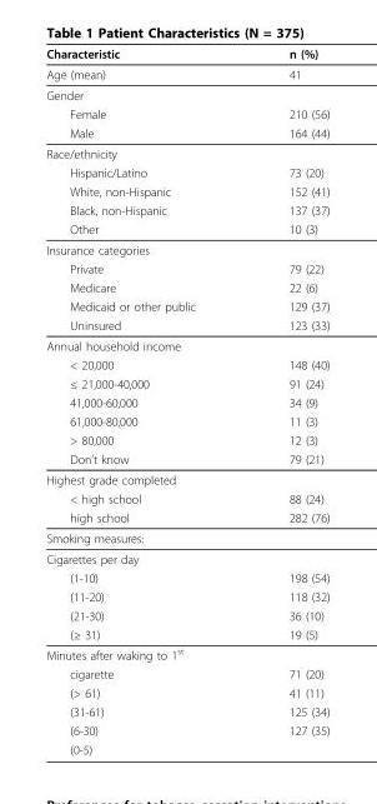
<table><thead><tr><td>Characteristic</td><td>n (%)</td></tr></thead><tbody><tr><td>Age (mean)</td><td>41</td></tr><tr><td colspan="2">Gender</td></tr><tr><td>Female</td><td>210 (56)</td></tr><tr><td>Male</td><td>164 (44)</td></tr><tr><td colspan="2">Race/ethnicity</td></tr><tr><td>Hispanic/Latino</td><td>73 (20)</td></tr><tr><td>White, non-Hispanic</td><td>152 (41)</td></tr><tr><td>Black, non-Hispanic</td><td>137 (37)</td></tr><tr><td>Other</td><td>10 (3)</td></tr><tr><td colspan="2">Insurance categories</td></tr><tr><td>Private</td><td>79 (22)</td></tr><tr><td>Medicare</td><td>22 (6)</td></tr><tr><td>Medicaid or other public</td><td>129 (37)</td></tr><tr><td>Uninsured</td><td>123 (33)</td></tr><tr><td colspan="2">Annual household income</td></tr><tr><td>&lt; 20,000</td><td>148 (40)</td></tr><tr><td>≤ 21,000-40,000</td><td>91 (24)</td></tr><tr><td>41,000-60,000</td><td>34 (9)</td></tr><tr><td>61,000-80,000</td><td>11 (3)</td></tr><tr><td>&gt; 80,000</td><td>12 (3)</td></tr><tr><td>Don’t know</td><td>79 (21)</td></tr><tr><td colspan="2">Highest grade completed</td></tr><tr><td>&lt; high school</td><td>88 (24)</td></tr><tr><td>high school</td><td>282 (76)</td></tr><tr><td colspan="2">Smoking measures:</td></tr><tr><td colspan="2">Cigarettes per day</td></tr><tr><td>(1-10)</td><td>198 (54)</td></tr><tr><td>(11-20)</td><td>118 (32)</td></tr><tr><td>(21-30)</td><td>36 (10)</td></tr><tr><td>(≥ 31)</td><td>19 (5)</td></tr><tr><td colspan="2">Minutes after waking to 1<sup>st</sup></td></tr><tr><td>cigarette</td><td>71 (20)</td></tr><tr><td>(&gt; 61)</td><td>41 (11)</td></tr><tr><td>(31-61)</td><td>125 (34)</td></tr><tr><td>(6-30)</td><td>127 (35)</td></tr><tr><td>(0-5)</td><td></td></tr></tbody></table>